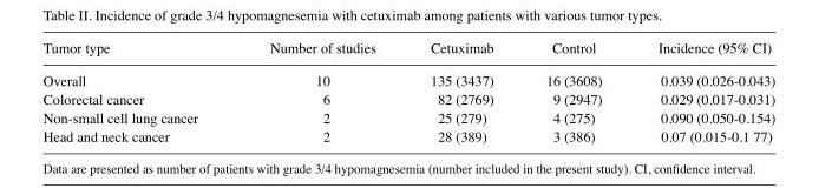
<table><thead><tr><td>Tumor type</td><td>Number of studies</td><td>Cetuximab</td><td>Control</td><td>Incidence (95% CI)</td></tr></thead><tbody><tr><td>Overall</td><td>10</td><td>135 (3437)</td><td>16 (3608)</td><td>0.039 (0.026-0.043)</td></tr><tr><td>Colorectal cancer</td><td>6</td><td>82 (2769)</td><td>9 (2947)</td><td>0.029 (0.017-0.031)</td></tr><tr><td>Non-small cell lung cancer</td><td>2</td><td>25 (279)</td><td>4 (275)</td><td>0.090 (0.050-0.154)</td></tr><tr><td>Head and neck cancer</td><td>2</td><td>28 (389)</td><td>3 (386)</td><td>0.07 (0.015-0.1 77)</td></tr></tbody></table>